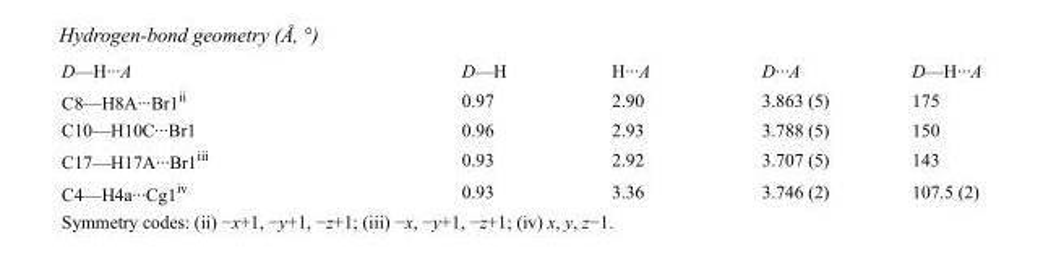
<table><tbody><tr><td>D—H···A</td><td>D—H</td><td>H···A</td><td>D···A</td><td>D—H···A</td></tr><tr><td>C8—H8A···Br1<sup>ii</sup></td><td>0.97</td><td>2.90</td><td>3.863 (5)</td><td>175</td></tr><tr><td>C10—H10C···Br1</td><td>0.96</td><td>2.93</td><td>3.788 (5)</td><td>150</td></tr><tr><td>C17—H17A···Br1<sup>iii</sup></td><td>0.93</td><td>2.92</td><td>3.707 (5)</td><td>143</td></tr><tr><td>C4—H4a···Cg1<sup>iv</sup></td><td>0.93</td><td>3.36</td><td>3.746 (2)</td><td>107.5 (2)</td></tr></tbody></table>